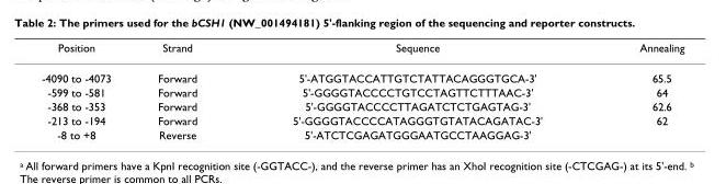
<table><thead><tr><td>Position</td><td>Strand</td><td>Sequence</td><td>Annealing</td></tr></thead><tbody><tr><td>-4090 to -4073</td><td>Forward</td><td>5&#x27;-ATGGTACCATTGTCTATTACAGGGTGCA-3&#x27;</td><td>65.5</td></tr><tr><td>-599 to -581</td><td>Forward</td><td>5&#x27;-GGGGTACCCCTGTCCTAGTTCTTTAAC-3&#x27;</td><td>64</td></tr><tr><td>-368 to -353</td><td>Forward</td><td>5&#x27;-GGGGTACCCCTTAGATCTCTGAGTAG-3&#x27;</td><td>62.6</td></tr><tr><td>-213 to -194</td><td>Forward</td><td>5&#x27;-GGGGTACCCCATAGGGTGTATACAGATAC-3&#x27;</td><td>62</td></tr><tr><td>-8 to +8</td><td>Reverse</td><td>5&#x27;-ATCTCGAGATGGGAATGCCTAAGGAG-3&#x27;</td><td></td></tr></tbody></table>